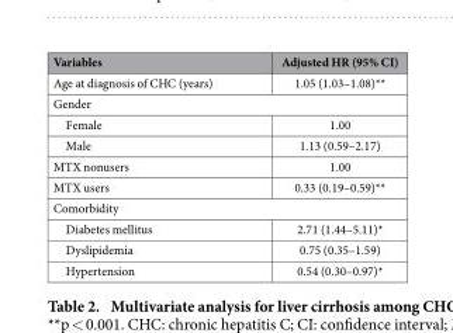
<table><thead><tr><td>Variables</td><td>Adjusted HR (95% CI)</td></tr></thead><tbody><tr><td>Age at diagnosis of CHC (years)</td><td>1.05 (1.03–1.08)**</td></tr><tr><td colspan="2">Gender</td></tr><tr><td>Female</td><td>1.00</td></tr><tr><td>Male</td><td>1.13 (0.59–2.17)</td></tr><tr><td>MTX nonusers</td><td>1.00</td></tr><tr><td>MTX users</td><td>0.33 (0.19–0.59)**</td></tr><tr><td colspan="2">Comorbidity</td></tr><tr><td>Diabetes mellitus</td><td>2.71 (1.44–5.11)*</td></tr><tr><td>Dyslipidemia</td><td>0.75 (0.35–1.59)</td></tr><tr><td>Hypertension</td><td>0.54 (0.30–0.97)*</td></tr></tbody></table>